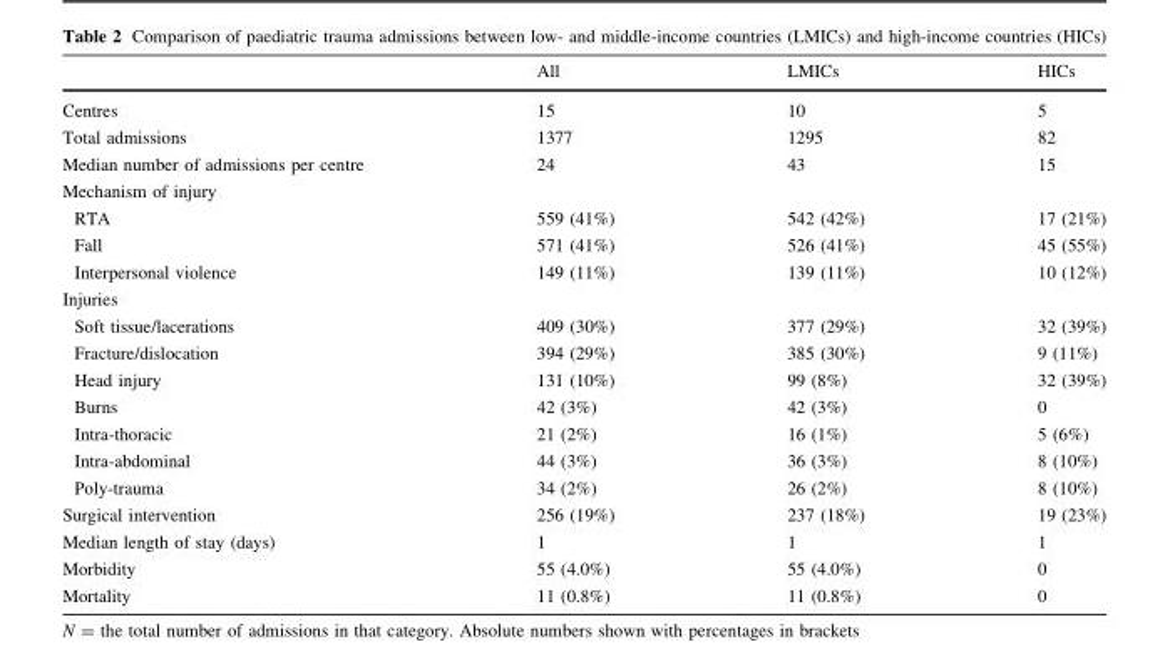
<table><thead><tr><td></td><td>All</td><td>LMICs</td><td>HICs</td></tr></thead><tbody><tr><td>Centres</td><td>15</td><td>10</td><td>5</td></tr><tr><td>Total admissions</td><td>1377</td><td>1295</td><td>82</td></tr><tr><td>Median number of admissions per centre</td><td>24</td><td>43</td><td>15</td></tr><tr><td colspan="4">Mechanism of injury</td></tr><tr><td>RTA</td><td>559 (41%)</td><td>542 (42%)</td><td>17 (21%)</td></tr><tr><td>Fall</td><td>571 (41%)</td><td>526 (41%)</td><td>45 (55%)</td></tr><tr><td>Interpersonal violence</td><td>149 (11%)</td><td>139 (11%)</td><td>10 (12%)</td></tr><tr><td colspan="4">Injuries</td></tr><tr><td>Soft tissue/lacerations</td><td>409 (30%)</td><td>377 (29%)</td><td>32 (39%)</td></tr><tr><td>Fracture/dislocation</td><td>394 (29%)</td><td>385 (30%)</td><td>9 (11%)</td></tr><tr><td>Head injury</td><td>131 (10%)</td><td>99 (8%)</td><td>32 (39%)</td></tr><tr><td>Burns</td><td>42 (3%)</td><td>42 (3%)</td><td>0</td></tr><tr><td>Intra-thoracic</td><td>21 (2%)</td><td>16 (1%)</td><td>5 (6%)</td></tr><tr><td>Intra-abdominal</td><td>44 (3%)</td><td>36 (3%)</td><td>8 (10%)</td></tr><tr><td>Poly-trauma</td><td>34 (2%)</td><td>26 (2%)</td><td>8 (10%)</td></tr><tr><td>Surgical intervention</td><td>256 (19%)</td><td>237 (18%)</td><td>19 (23%)</td></tr><tr><td>Median length of stay (days)</td><td>1</td><td>1</td><td>1</td></tr><tr><td>Morbidity</td><td>55 (4.0%)</td><td>55 (4.0%)</td><td>0</td></tr><tr><td>Mortality</td><td>11 (0.8%)</td><td>11 (0.8%)</td><td>0</td></tr></tbody></table>